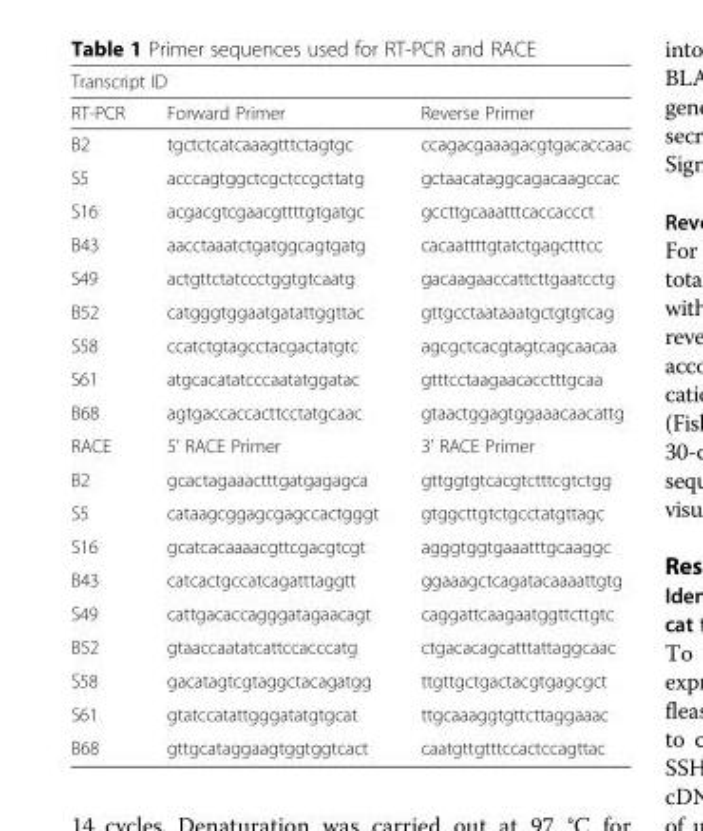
<table><thead><tr><td colspan="3">Transcript ID</td></tr><tr><td>RT-PCR</td><td>Forward Primer</td><td>Reverse Primer</td></tr></thead><tbody><tr><td>B2</td><td>tgctctcatcaaagtttctagtgc</td><td>ccagacgaaagacgtgacaccaac</td></tr><tr><td>S5</td><td>acccagtggctcgctccgcttatg</td><td>gctaacataggcagacaagccac</td></tr><tr><td>S16</td><td>acgacgtcgaacgttttgtgatgc</td><td>gccttgcaaatttcaccaccct</td></tr><tr><td>B43</td><td>aacctaaatctgatggcagtgatg</td><td>cacaattttgtatctgagctttcc</td></tr><tr><td>S49</td><td>actgttctatccctggtgtcaatg</td><td>gacaagaaccattcttgaatcctg</td></tr><tr><td>B52</td><td>catgggtggaatgatattggttac</td><td>gttgcctaataaatgctgtgtcag</td></tr><tr><td>S58</td><td>ccatctgtagcctacgactatgtc</td><td>agcgctcacgtagtcagcaacaa</td></tr><tr><td>S61</td><td>atgcacatatcccaatatggatac</td><td>gtttcctaagaacacctttgcaa</td></tr><tr><td>B68</td><td>agtgaccaccacttcctatgcaac</td><td>gtaactggagtggaaacaacattg</td></tr><tr><td>RACE</td><td>5’ RACE Primer</td><td>3’ RACE Primer</td></tr><tr><td>B2</td><td>gcactagaaactttgatgagagca</td><td>gttggtgtcacgtctttcgtctgg</td></tr><tr><td>S5</td><td>cataagcggagcgagccactgggt</td><td>gtggcttgtctgcctatgttagc</td></tr><tr><td>S16</td><td>gcatcacaaaacgttcgacgtcgt</td><td>agggtggtgaaatttgcaaggc</td></tr><tr><td>B43</td><td>catcactgccatcagatttaggtt</td><td>ggaaagctcagatacaaaattgtg</td></tr><tr><td>S49</td><td>cattgacaccagggatagaacagt</td><td>caggattcaagaatggttcttgtc</td></tr><tr><td>B52</td><td>gtaaccaatatcattccacccatg</td><td>ctgacacagcatttattaggcaac</td></tr><tr><td>S58</td><td>gacatagtcgtaggctacagatgg</td><td>ttgttgctgactacgtgagcgct</td></tr><tr><td>S61</td><td>gtatccatattgggatatgtgcat</td><td>ttgcaaaggtgttcttaggaaac</td></tr><tr><td>B68</td><td>gttgcataggaagtggtggtcact</td><td>caatgttgtttccactccagttac</td></tr></tbody></table>